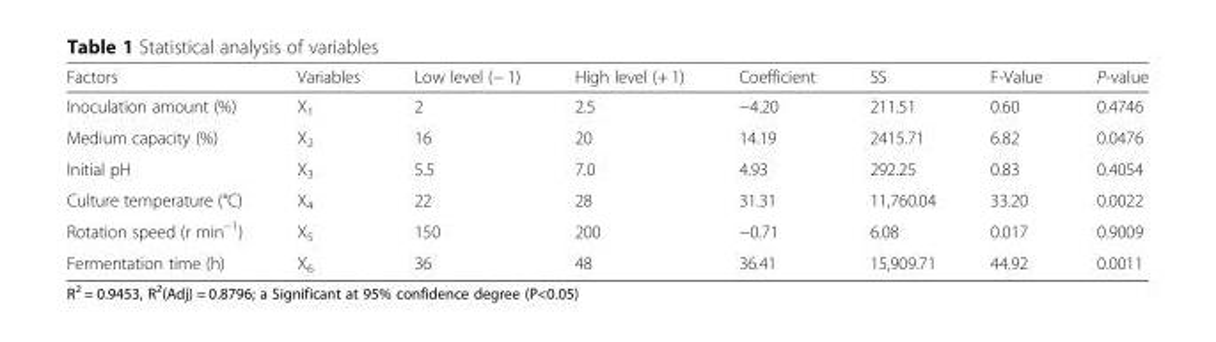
<table><thead><tr><td>Factors</td><td>Variables</td><td>Low level (− 1)</td><td>High level (+ 1)</td><td>Coefficient</td><td>SS</td><td>F-Value</td><td>P-value</td></tr></thead><tbody><tr><td>Inoculation amount (%)</td><td>X<sub>1</sub></td><td>2</td><td>2.5</td><td>−4.20</td><td>211.51</td><td>0.60</td><td>0.4746</td></tr><tr><td>Medium capacity (%)</td><td>X<sub>2</sub></td><td>16</td><td>20</td><td>14.19</td><td>2415.71</td><td>6.82</td><td>0.0476</td></tr><tr><td>Initial pH</td><td>X<sub>3</sub></td><td>5.5</td><td>7.0</td><td>4.93</td><td>292.25</td><td>0.83</td><td>0.4054</td></tr><tr><td>Culture temperature (°C)</td><td>X<sub>4</sub></td><td>22</td><td>28</td><td>31.31</td><td>11,760.04</td><td>33.20</td><td>0.0022</td></tr><tr><td>Rotation speed (r min<sup>−1</sup>)</td><td>X<sub>5</sub></td><td>150</td><td>200</td><td>−0.71</td><td>6.08</td><td>0.017</td><td>0.9009</td></tr><tr><td>Fermentation time (h)</td><td>X<sub>6</sub></td><td>36</td><td>48</td><td>36.41</td><td>15,909.71</td><td>44.92</td><td>0.0011</td></tr></tbody></table>